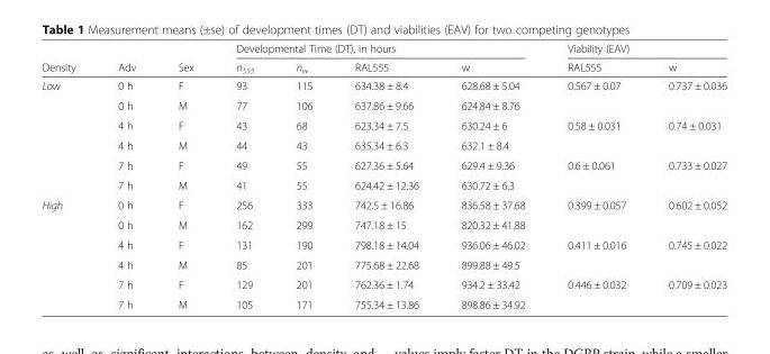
<table><thead><tr><td rowspan="2">Density</td><td rowspan="2">Adv</td><td rowspan="2">Sex</td><td colspan="4">Developmental Time (DT), in hours</td><td colspan="2">Viability (EAV)</td></tr><tr><td>n<sub>555</sub></td><td>n<sub>w</sub></td><td>RAL555</td><td>w</td><td>RAL555</td><td>w</td></tr></thead><tbody><tr><td rowspan="6">Low</td><td>0 h</td><td>F</td><td>93</td><td>115</td><td>634.38 ± 8.4</td><td>628.68 ± 5.04</td><td>0.567 ± 0.07</td><td>0.737 ± 0.036</td></tr><tr><td>0 h</td><td>M</td><td>77</td><td>106</td><td>637.86 ± 9.66</td><td>624.84 ± 8.76</td><td></td><td></td></tr><tr><td>4 h</td><td>F</td><td>43</td><td>68</td><td>623.34 ± 7.5</td><td>630.24 ± 6</td><td>0.58 ± 0.031</td><td>0.74 ± 0.031</td></tr><tr><td>4 h</td><td>M</td><td>44</td><td>43</td><td>635.34 ± 6.3</td><td>632.1 ± 8.4</td><td></td><td></td></tr><tr><td>7 h</td><td>F</td><td>49</td><td>55</td><td>627.36 ± 5.64</td><td>629.4 ± 9.36</td><td>0.6 ± 0.061</td><td>0.733 ± 0.027</td></tr><tr><td>7 h</td><td>M</td><td>41</td><td>55</td><td>624.42 ± 12.36</td><td>630.72 ± 6.3</td><td></td><td></td></tr><tr><td rowspan="6">High</td><td>0 h</td><td>F</td><td>256</td><td>333</td><td>742.5 ± 16.86</td><td>836.58 ± 37.68</td><td>0.399 ± 0.057</td><td>0.602 ± 0.052</td></tr><tr><td>0 h</td><td>M</td><td>162</td><td>299</td><td>747.18 ± 15</td><td>820.32 ± 41.88</td><td></td><td></td></tr><tr><td>4 h</td><td>F</td><td>131</td><td>190</td><td>798.18 ± 14.04</td><td>936.06 ± 46.02</td><td>0.411 ± 0.016</td><td>0.745 ± 0.022</td></tr><tr><td>4 h</td><td>M</td><td>85</td><td>201</td><td>775.68 ± 22.68</td><td>899.88 ± 49.5</td><td></td><td></td></tr><tr><td>7 h</td><td>F</td><td>129</td><td>201</td><td>762.36 ± 1.74</td><td>934.2 ± 33.42</td><td>0.446 ± 0.032</td><td>0.709 ± 0.023</td></tr><tr><td>7 h</td><td>M</td><td>105</td><td>171</td><td>755.34 ± 13.86</td><td>898.86 ± 34.92</td><td></td><td></td></tr></tbody></table>